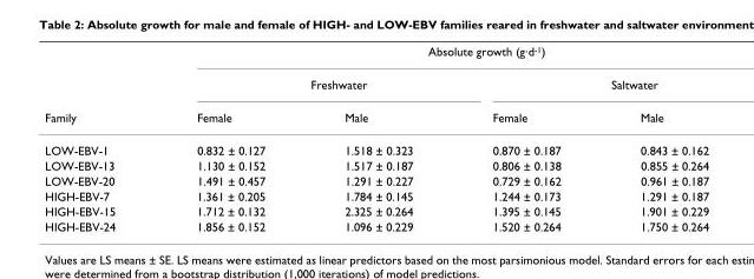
<table><thead><tr><td rowspan="3">Family</td><td colspan="4">Absolute growth (g·d<sup>-1</sup>)</td></tr><tr><td colspan="2">Freshwater</td><td colspan="2">Saltwater</td></tr><tr><td>Female</td><td>Male</td><td>Female</td><td>Male</td></tr></thead><tbody><tr><td>LOW-EBV-1</td><td>0.832 ± 0.127</td><td>1.518 ± 0.323</td><td>0.870 ± 0.187</td><td>0.843 ± 0.162</td></tr><tr><td>LOW-EBV-13</td><td>1.130 ± 0.152</td><td>1.517 ± 0.187</td><td>0.806 ± 0.138</td><td>0.855 ± 0.264</td></tr><tr><td>LOW-EBV-20</td><td>1.491 ± 0.457</td><td>1.291 ± 0.227</td><td>0.729 ± 0.162</td><td>0.961 ± 0.187</td></tr><tr><td>HIGH-EBV-7</td><td>1.361 ± 0.205</td><td>1.784 ± 0.145</td><td>1.244 ± 0.173</td><td>1.291 ± 0.187</td></tr><tr><td>HIGH-EBV-15</td><td>1.712 ± 0.132</td><td>2.325 ± 0.264</td><td>1.395 ± 0.145</td><td>1.901 ± 0.229</td></tr><tr><td>HIGH-EBV-24</td><td>1.856 ± 0.152</td><td>1.096 ± 0.229</td><td>1.520 ± 0.264</td><td>1.750 ± 0.264</td></tr></tbody></table>